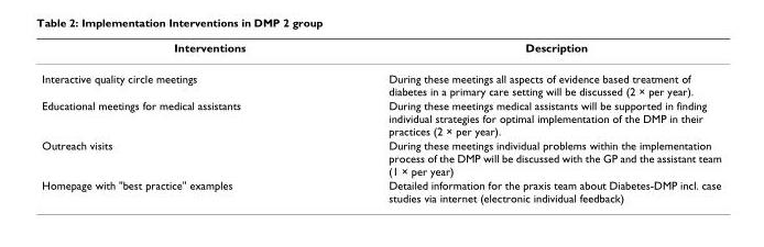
<table><thead><tr><td>Interventions</td><td>Description</td></tr></thead><tbody><tr><td>Interactive quality circle meetings</td><td>During these meetings all aspects of evidence based treatment of diabetes in a primary care setting will be discussed (2 × per year).</td></tr><tr><td>Educational meetings for medical assistants</td><td>During these meetings medical assistants will be supported in finding individual strategies for optimal implementation of the DMP in their practices (2 × per year).</td></tr><tr><td>Outreach visits</td><td>During these meetings individual problems within the implementation process of the DMP will be discussed with the GP and the assistant team (1 × per year)</td></tr><tr><td>Homepage with &quot;best practice&quot; examples</td><td>Detailed information for the praxis team about Diabetes-DMP incl. case studies via internet (electronic individual feedback)</td></tr></tbody></table>